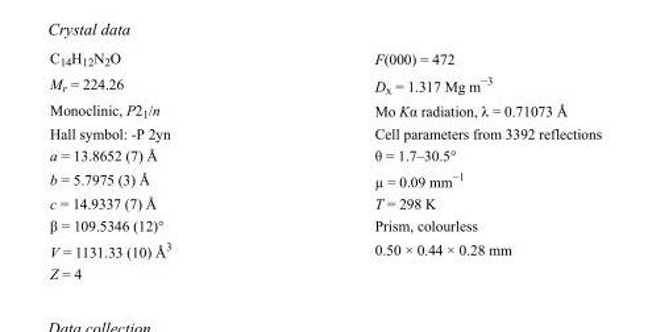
<table><tbody><tr><td>C<sub>14</sub>H<sub>12</sub>N<sub>2</sub>O</td><td>F(000) = 472</td></tr><tr><td>M<sub>r</sub> = 224.26</td><td>D<sub>x</sub> = 1.317 Mg m<sup>−3</sup></td></tr><tr><td>Monoclinic, P2<sub>1</sub>/n</td><td>Mo Kα radiation, λ = 0.71073 Å</td></tr><tr><td>Hall symbol: -P 2yn</td><td>Cell parameters from 3392 reflections</td></tr><tr><td>a = 13.8652 (7) Å</td><td>θ = 1.7–30.5°</td></tr><tr><td>b = 5.7975 (3) Å</td><td>µ = 0.09 mm<sup>−1</sup></td></tr><tr><td>c = 14.9337 (7) Å</td><td>T = 298 K</td></tr><tr><td>β = 109.5346 (12)°</td><td>Prism, colourless</td></tr><tr><td>V = 1131.33 (10) Å<sup>3</sup></td><td>0.50 × 0.44 × 0.28 mm</td></tr><tr><td>Z = 4</td><td></td></tr></tbody></table>